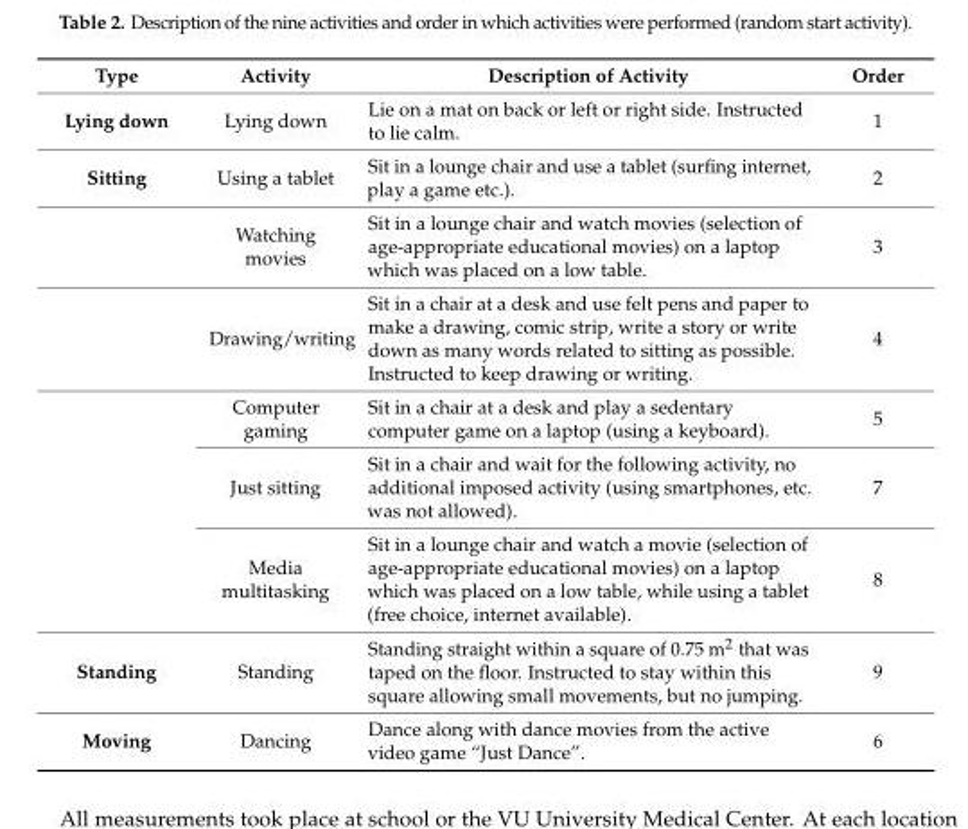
<table><thead><tr><td>Type</td><td>Activity</td><td>Description of Activity</td><td>Order</td></tr></thead><tbody><tr><td>Lying down</td><td>Lying down</td><td>Lie on a mat on back or left or right side. Instructed to lie calm.</td><td>1</td></tr><tr><td rowspan="6">Sitting</td><td>Using a tablet</td><td>Sit in a lounge chair and use a tablet (surfing internet, play a game etc.).</td><td>2</td></tr><tr><td>Watching movies</td><td>Sit in a lounge chair and watch movies (selection of age-appropriate educational movies) on a laptop which was placed on a low table.</td><td>3</td></tr><tr><td>Drawing/writing</td><td>Sit in a chair at a desk and use felt pens and paper to make a drawing, comic strip, write a story or write down as many words related to sitting as possible. Instructed to keep drawing or writing.</td><td>4</td></tr><tr><td>Computer gaming</td><td>Sit in a chair at a desk and play a sedentary computer game on a laptop (using a keyboard).</td><td>5</td></tr><tr><td>Just sitting</td><td>Sit in a chair and wait for the following activity, no additional imposed activity (using smartphones, etc. was not allowed).</td><td>7</td></tr><tr><td>Media multitasking</td><td>Sit in a lounge chair and watch a movie (selection of age-appropriate educational movies) on a laptop which was placed on a low table, while using a tablet (free choice, internet available).</td><td>8</td></tr><tr><td>Standing</td><td>Standing</td><td>Standing straight within a square of 0.75 m<sup>2</sup> that was taped on the floor. Instructed to stay within this square allowing small movements, but no jumping.</td><td>9</td></tr><tr><td>Moving</td><td>Dancing</td><td>Dance along with dance movies from the active video game “Just Dance”.</td><td>6</td></tr></tbody></table>